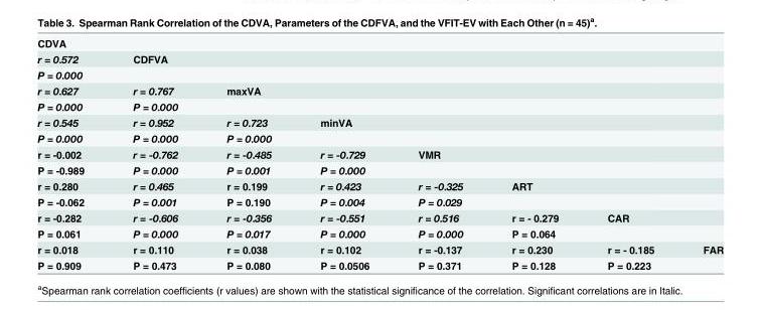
<table><tbody><tr><td colspan="8">CDVA</td></tr><tr><td>r = 0.572</td><td>CDFVA</td><td></td><td></td><td></td><td></td><td></td><td></td></tr><tr><td colspan="8">P = 0.000</td></tr><tr><td>r = 0.627</td><td>r = 0.767</td><td>maxVA</td><td></td><td></td><td></td><td></td><td></td></tr><tr><td>P = 0.000</td><td>P = 0.000</td><td></td><td></td><td></td><td></td><td></td><td></td></tr><tr><td>r = 0.545</td><td>r = 0.952</td><td>r = 0.723</td><td>minVA</td><td></td><td></td><td></td><td></td></tr><tr><td>P = 0.000</td><td>P = 0.000</td><td>P = 0.000</td><td></td><td></td><td></td><td></td><td></td></tr><tr><td>r = -0.002</td><td>r = -0.762</td><td>r = -0.485</td><td>r = -0.729</td><td>VMR</td><td></td><td></td><td></td></tr><tr><td>P = -0.989</td><td>P = 0.000</td><td>P = 0.001</td><td>P = 0.000</td><td></td><td></td><td></td><td></td></tr><tr><td>r = 0.280</td><td>r = 0.465</td><td>r = 0.199</td><td>r = 0.423</td><td>r = -0.325</td><td>ART</td><td></td><td></td></tr><tr><td>P = -0.062</td><td>P = 0.001</td><td>P = 0.190</td><td>P = 0.004</td><td>P = 0.029</td><td></td><td></td><td></td></tr><tr><td>r = -0.282</td><td>r = -0.606</td><td>r = -0.356</td><td>r = -0.551</td><td>r = 0.516</td><td>r = - 0.279</td><td>CAR</td><td></td></tr><tr><td>P = 0.061</td><td>P = 0.000</td><td>P = 0.017</td><td>P = 0.000</td><td>P = 0.000</td><td>P = 0.064</td><td></td><td></td></tr><tr><td>r = 0.018</td><td>r = 0.110</td><td>r = 0.038</td><td>r = 0.102</td><td>r = -0.137</td><td>r = 0.230</td><td>r = - 0.185</td><td>FAR</td></tr><tr><td>P = 0.909</td><td>P = 0.473</td><td>P = 0.080</td><td>P = 0.0506</td><td>P = 0.371</td><td>P = 0.128</td><td>P = 0.223</td><td></td></tr></tbody></table>